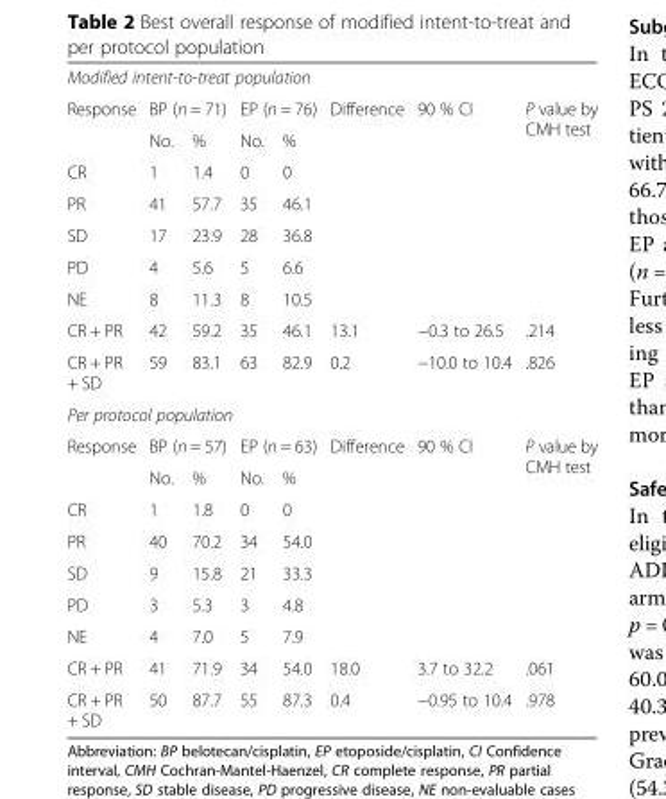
<table><tbody><tr><td colspan="8">Modified intent-to-treat population</td></tr><tr><td rowspan="2">Response</td><td colspan="2">BP (n = 71)</td><td colspan="2">EP (n = 76)</td><td rowspan="2">Difference</td><td rowspan="2">90 % CI</td><td rowspan="2">P value by CMH test</td></tr><tr><td>No.</td><td>%</td><td>No.</td><td>%</td></tr><tr><td>CR</td><td>1</td><td>1.4</td><td>0</td><td>0</td><td rowspan="5" colspan="3"></td></tr><tr><td>PR</td><td>41</td><td>57.7</td><td>35</td><td>46.1</td></tr><tr><td>SD</td><td>17</td><td>23.9</td><td>28</td><td>36.8</td></tr><tr><td>PD</td><td>4</td><td>5.6</td><td>5</td><td>6.6</td></tr><tr><td>NE</td><td>8</td><td>11.3</td><td>8</td><td>10.5</td></tr><tr><td>CR + PR</td><td>42</td><td>59.2</td><td>35</td><td>46.1</td><td>13.1</td><td>−0.3 to 26.5</td><td>.214</td></tr><tr><td>CR + PR + SD</td><td>59</td><td>83.1</td><td>63</td><td>82.9</td><td>0.2</td><td>−10.0 to 10.4</td><td>.826</td></tr><tr><td colspan="8">Per protocol population</td></tr><tr><td rowspan="2">Response</td><td colspan="2">BP (n = 57)</td><td colspan="2">EP (n = 63)</td><td rowspan="2">Difference</td><td rowspan="2">90 % CI</td><td rowspan="2">P value by CMH test</td></tr><tr><td>No.</td><td>%</td><td>No.</td><td>%</td></tr><tr><td>CR</td><td>1</td><td>1.8</td><td>0</td><td>0</td><td rowspan="5" colspan="3"></td></tr><tr><td>PR</td><td>40</td><td>70.2</td><td>34</td><td>54.0</td></tr><tr><td>SD</td><td>9</td><td>15.8</td><td>21</td><td>33.3</td></tr><tr><td>PD</td><td>3</td><td>5.3</td><td>3</td><td>4.8</td></tr><tr><td>NE</td><td>4</td><td>7.0</td><td>5</td><td>7.9</td></tr><tr><td>CR + PR</td><td>41</td><td>71.9</td><td>34</td><td>54.0</td><td>18.0</td><td>3.7 to 32.2</td><td>.061</td></tr><tr><td>CR + PR + SD</td><td>50</td><td>87.7</td><td>55</td><td>87.3</td><td>0.4</td><td>−0.95 to 10.4</td><td>.978</td></tr></tbody></table>